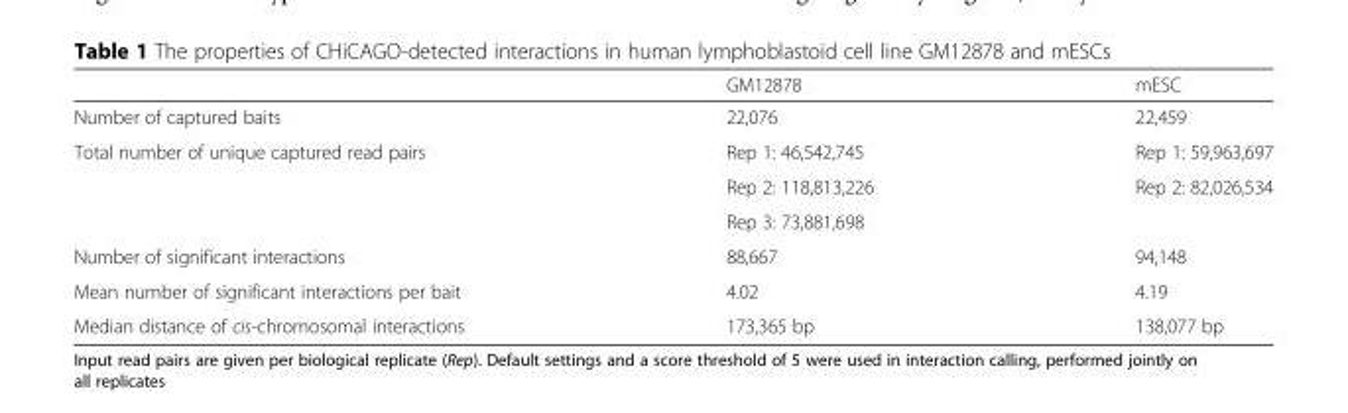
<table><thead><tr><td></td><td>GM12878</td><td>mESC</td></tr></thead><tbody><tr><td>Number of captured baits</td><td>22,076</td><td>22,459</td></tr><tr><td rowspan="3">Total number of unique captured read pairs</td><td>Rep 1: 46,542,745</td><td>Rep 1: 59,963,697</td></tr><tr><td>Rep 2: 118,813,226</td><td rowspan="2">Rep 2: 82,026,534</td></tr><tr><td>Rep 3: 73,881,698</td></tr><tr><td>Number of significant interactions</td><td>88,667</td><td>94,148</td></tr><tr><td>Mean number of significant interactions per bait</td><td>4.02</td><td>4.19</td></tr><tr><td>Median distance of cis-chromosomal interactions</td><td>173,365 bp</td><td>138,077 bp</td></tr></tbody></table>